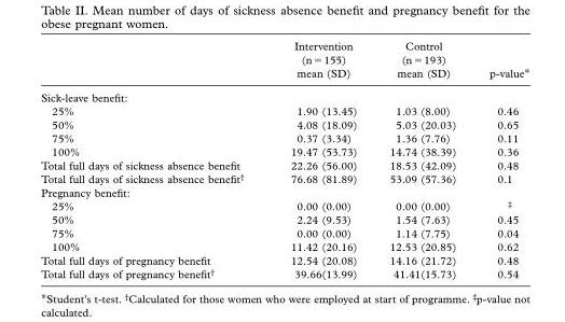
<table><thead><tr><td></td><td>Intervention (n = 155) mean (SD)</td><td>Control (n = 193) mean (SD)</td><td>p-value</td></tr></thead><tbody><tr><td colspan="4">Sick-leave benefi t:</td></tr><tr><td>25%</td><td>1.90 (13.45)</td><td>1.03 (8.00)</td><td>0.46</td></tr><tr><td>50%</td><td>4.08 (18.09)</td><td>5.03 (20.03)</td><td>0.65</td></tr><tr><td>75%</td><td>0.37 (3.34)</td><td>1.36 (7.76)</td><td>0.11</td></tr><tr><td>100%</td><td>19.47 (53.73)</td><td>14.74 (38.39)</td><td>0.36</td></tr><tr><td>Total full days of sickness absence benefi t</td><td>22.26 (56.00)</td><td>18.53 (42.09)</td><td>0.48</td></tr><tr><td>Total full days of sickness absence benefi t †</td><td>76.68 (81.89)</td><td>53.09 (57.36)</td><td>0.1</td></tr><tr><td colspan="4">Pregnancy benefi t:</td></tr><tr><td>25%</td><td>0.00 (0.00)</td><td>0.00 (0.00)</td><td>‡</td></tr><tr><td>50%</td><td>2.24 (9.53)</td><td>1.54 (7.63)</td><td>0.45</td></tr><tr><td>75%</td><td>0.00 (0.00)</td><td>1.14 (7.75)</td><td>0.04</td></tr><tr><td>100%</td><td>11.42 (20.16)</td><td>12.53 (20.85)</td><td>0.62</td></tr><tr><td>Total full days of pregnancy benefi t</td><td>12.54 (20.08)</td><td>14.16 (21.72)</td><td>0.48</td></tr><tr><td>Total full days of pregnancy benefi t †</td><td>39.66(13.99)</td><td>41.41(15.73)</td><td>0.54</td></tr></tbody></table>